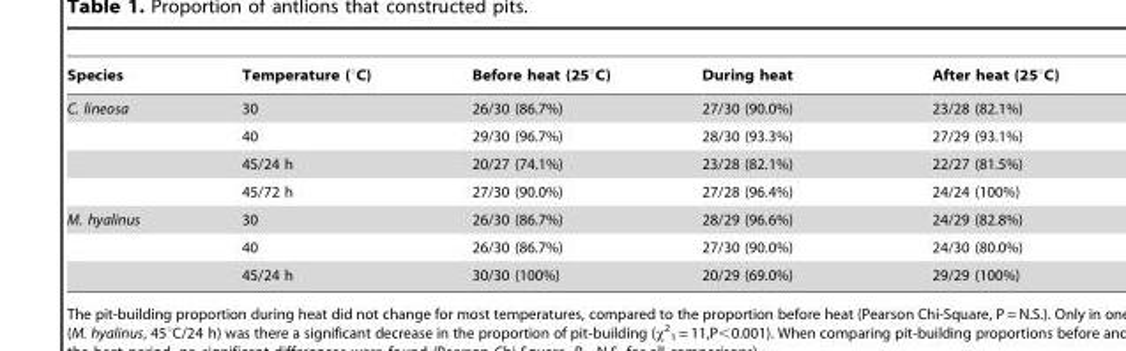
<table><thead><tr><td>Species</td><td>Temperature (°C)</td><td>Before heat (25°C)</td><td>During heat</td><td>After heat (25°C)</td></tr></thead><tbody><tr><td rowspan="4">C. lineosa</td><td>30</td><td>26/30 (86.7%)</td><td>27/30 (90.0%)</td><td>23/28 (82.1%)</td></tr><tr><td>40</td><td>29/30 (96.7%)</td><td>28/30 (93.3%)</td><td>27/29 (93.1%)</td></tr><tr><td>45/24 h</td><td>20/27 (74.1%)</td><td>23/28 (82.1%)</td><td>22/27 (81.5%)</td></tr><tr><td>45/72 h</td><td>27/30 (90.0%)</td><td>27/28 (96.4%)</td><td>24/24 (100%)</td></tr><tr><td rowspan="3">M. hyalinus</td><td>30</td><td>26/30 (86.7%)</td><td>28/29 (96.6%)</td><td>24/29 (82.8%)</td></tr><tr><td>40</td><td>26/30 (86.7%)</td><td>27/30 (90.0%)</td><td>24/30 (80.0%)</td></tr><tr><td>45/24 h</td><td>30/30 (100%)</td><td>20/29 (69.0%)</td><td>29/29 (100%)</td></tr></tbody></table>